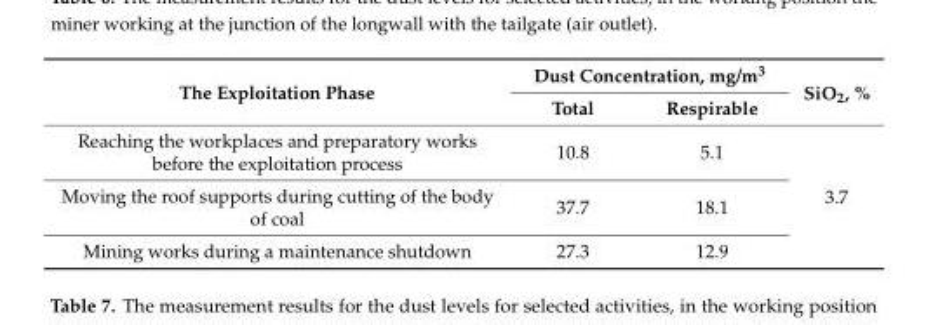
<table><thead><tr><td rowspan="2">The Exploitation Phase</td><td colspan="2">Dust Concentration, mg/m<sup>3</sup></td><td rowspan="2">SiO<sub>2</sub>, %</td></tr><tr><td>Total</td><td>Respirable</td></tr></thead><tbody><tr><td>Reaching the workplaces and preparatory works before the exploitation process</td><td>10.8</td><td>5.1</td><td rowspan="3">3.7</td></tr><tr><td>Moving the roof supports during cutting of the body of coal</td><td>37.7</td><td>18.1</td></tr><tr><td>Mining works during a maintenance shutdown</td><td>27.3</td><td>12.9</td></tr></tbody></table>